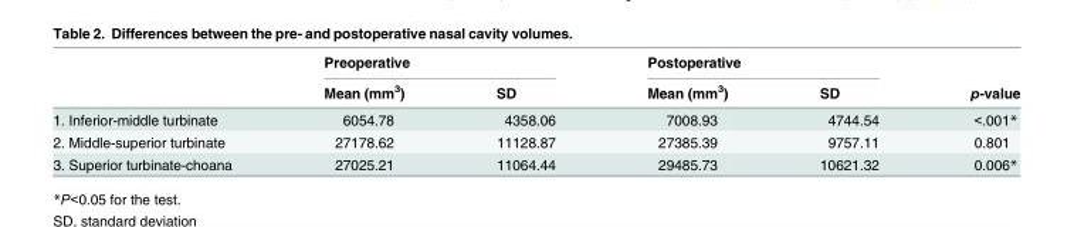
<table><thead><tr><td rowspan="2"></td><td colspan="2">Preoperative</td><td colspan="2">Postoperative</td><td rowspan="2">p-value</td></tr><tr><td>Mean (mm<sup>3</sup>)</td><td>SD</td><td>Mean (mm<sup>3</sup>)</td><td>SD</td></tr></thead><tbody><tr><td>1. Inferior-middle turbinate</td><td>6054.78</td><td>4358.06</td><td>7008.93</td><td>4744.54</td><td>&lt;.001*</td></tr><tr><td>2. Middle-superior turbinate</td><td>27178.62</td><td>11128.87</td><td>27385.39</td><td>9757.11</td><td>0.801</td></tr><tr><td>3. Superior turbinate-choana</td><td>27025.21</td><td>11064.44</td><td>29485.73</td><td>10621.32</td><td>0.006*</td></tr></tbody></table>